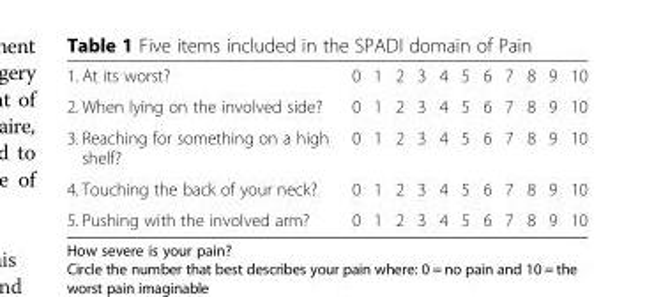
<table><tbody><tr><td>1. At its worst?</td><td>0</td><td>1</td><td>2</td><td>3</td><td>4</td><td>5</td><td>6</td><td>7</td><td>8</td><td>9</td><td>10</td></tr><tr><td>2. When lying on the involved side?</td><td>0</td><td>1</td><td>2</td><td>3</td><td>4</td><td>5</td><td>6</td><td>7</td><td>8</td><td>9</td><td>10</td></tr><tr><td>3. Reaching for something on a high shelf?</td><td>0</td><td>1</td><td>2</td><td>3</td><td>4</td><td>5</td><td>6</td><td>7</td><td>8</td><td>9</td><td>10</td></tr><tr><td>4. Touching the back of your neck?</td><td>0</td><td>1</td><td>2</td><td>3</td><td>4</td><td>5</td><td>6</td><td>7</td><td>8</td><td>9</td><td>10</td></tr><tr><td>5. Pushing with the involved arm?</td><td>0</td><td>1</td><td>2</td><td>3</td><td>4</td><td>5</td><td>6</td><td>7</td><td>8</td><td>9</td><td>10</td></tr></tbody></table>